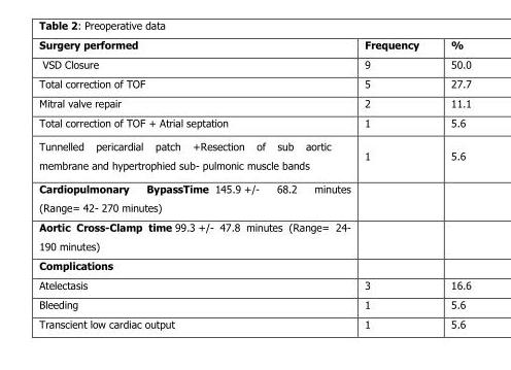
<table><thead><tr><td>Surgery performed</td><td>Frequency</td><td>%</td></tr></thead><tbody><tr><td>VSD Closure</td><td>9</td><td>50.0</td></tr><tr><td>Total correction of TOF</td><td>5</td><td>27.7</td></tr><tr><td>Mitral valve repair</td><td>2</td><td>11.1</td></tr><tr><td>Total correction of TOF + Atrial septation</td><td>1</td><td>5.6</td></tr><tr><td>Tunnelled pericardial patch +Resection of sub aortic membrane and hypertrophied sub- pulmonic muscle bands</td><td>1</td><td>5.6</td></tr><tr><td colspan="3">Cardiopulmonary BypassTime 145.9 +/- 68.2 minutes (Range= 42- 270 minutes)</td></tr><tr><td colspan="3">Aortic Cross-Clamp time 99.3 +/- 47.8 minutes (Range= 24- 190 minutes)</td></tr><tr><td colspan="3">Complications</td></tr><tr><td>Atelectasis</td><td>3</td><td>16.6</td></tr><tr><td>Bleeding</td><td>1</td><td>5.6</td></tr><tr><td>Transcient low cardiac output</td><td>1</td><td>5.6</td></tr></tbody></table>